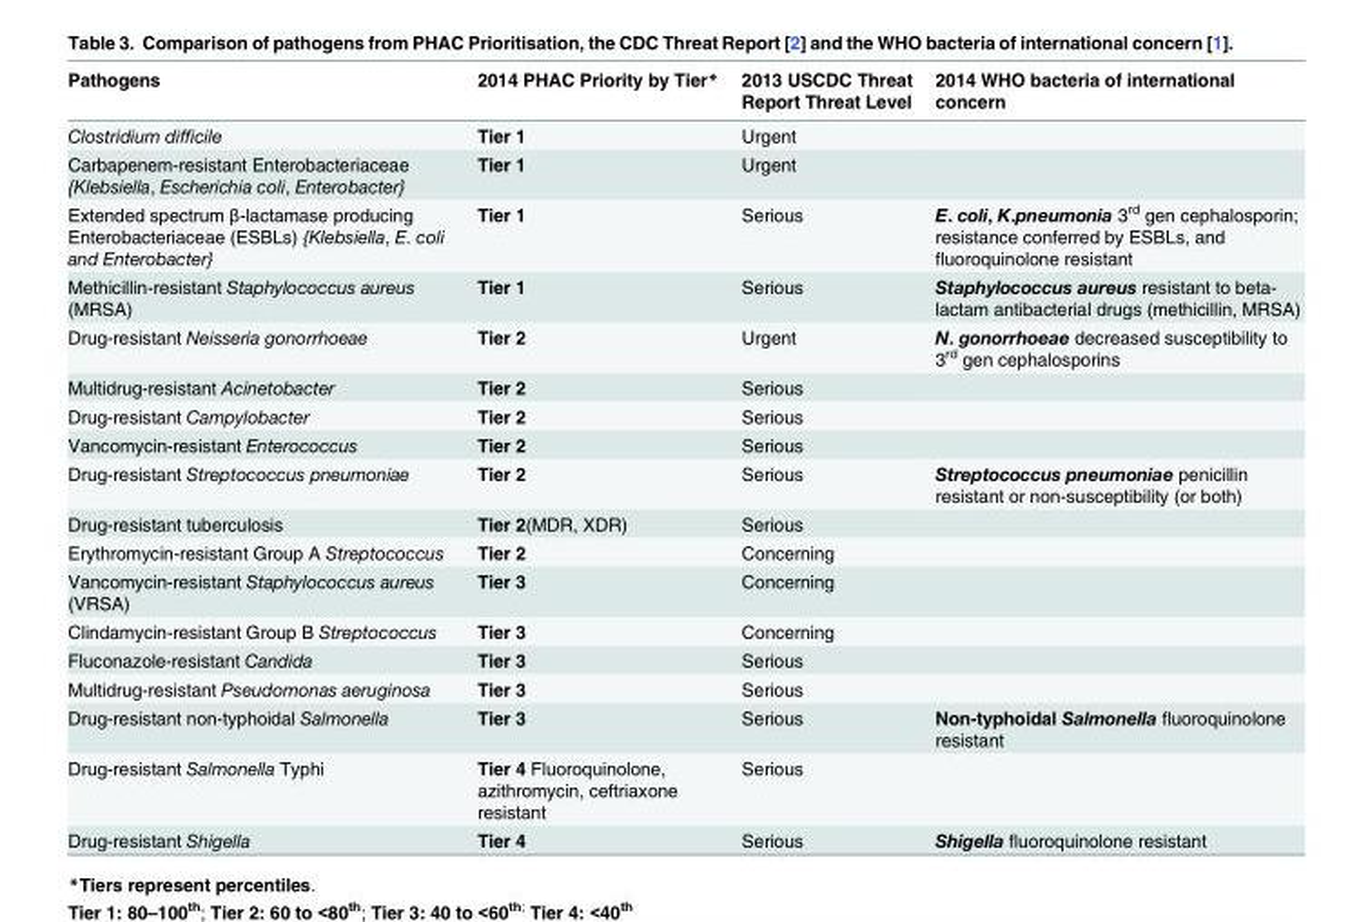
<table><thead><tr><td>Pathogens</td><td>2014 PHAC Priority by Tier*</td><td>2013 USCDC Threat Report Threat Level</td><td>2014 WHO bacteria of international concern</td></tr></thead><tbody><tr><td>Clostridium difficile</td><td>Tier 1</td><td>Urgent</td><td></td></tr><tr><td>Carbapenem-resistant Enterobacteriaceae {Klebsiella, Escherichia coli, Enterobacter}</td><td>Tier 1</td><td>Urgent</td><td></td></tr><tr><td>Extended spectrum β-lactamase producing Enterobacteriaceae (ESBLs) {Klebsiella, E. coli and Enterobacter}</td><td>Tier 1</td><td>Serious</td><td>E. coli, K.pneumonia 3<sup>rd</sup> gen cephalosporin; resistance conferred by ESBLs, and fluoroquinolone resistant</td></tr><tr><td>Methicillin-resistant Staphylococcus aureus (MRSA)</td><td>Tier 1</td><td>Serious</td><td>Staphylococcus aureus resistant to beta- lactam antibacterial drugs (methicillin, MRSA)</td></tr><tr><td>Drug-resistant Neisseria gonorrhoeae</td><td>Tier 2</td><td>Urgent</td><td>N. gonorrhoeae decreased susceptibility to 3<sup>rd</sup> gen cephalosporins</td></tr><tr><td>Multidrug-resistant Acinetobacter</td><td>Tier 2</td><td>Serious</td><td></td></tr><tr><td>Drug-resistant Campylobacter</td><td>Tier 2</td><td>Serious</td><td></td></tr><tr><td>Vancomycin-resistant Enterococcus</td><td>Tier 2</td><td>Serious</td><td></td></tr><tr><td>Drug-resistant Streptococcus pneumoniae</td><td>Tier 2</td><td>Serious</td><td>Streptococcus pneumoniae penicillin resistant or non-susceptibility (or both)</td></tr><tr><td>Drug-resistant tuberculosis</td><td>Tier 2(MDR, XDR)</td><td>Serious</td><td></td></tr><tr><td>Erythromycin-resistant Group A Streptococcus</td><td>Tier 2</td><td>Concerning</td><td></td></tr><tr><td>Vancomycin-resistant Staphylococcus aureus (VRSA)</td><td>Tier 3</td><td>Concerning</td><td></td></tr><tr><td>Clindamycin-resistant Group B Streptococcus</td><td>Tier 3</td><td>Concerning</td><td></td></tr><tr><td>Fluconazole-resistant Candida</td><td>Tier 3</td><td>Serious</td><td></td></tr><tr><td>Multidrug-resistant Pseudomonas aeruginosa</td><td>Tier 3</td><td>Serious</td><td></td></tr><tr><td>Drug-resistant non-typhoidal Salmonella</td><td>Tier 3</td><td>Serious</td><td>Non-typhoidal Salmonella fluoroquinolone resistant</td></tr><tr><td>Drug-resistant Salmonella Typhi</td><td>Tier 4 Fluoroquinolone, azithromycin, ceftriaxone resistant</td><td>Serious</td><td></td></tr><tr><td>Drug-resistant Shigella</td><td>Tier 4</td><td>Serious</td><td>Shigella fluoroquinolone resistant</td></tr></tbody></table>